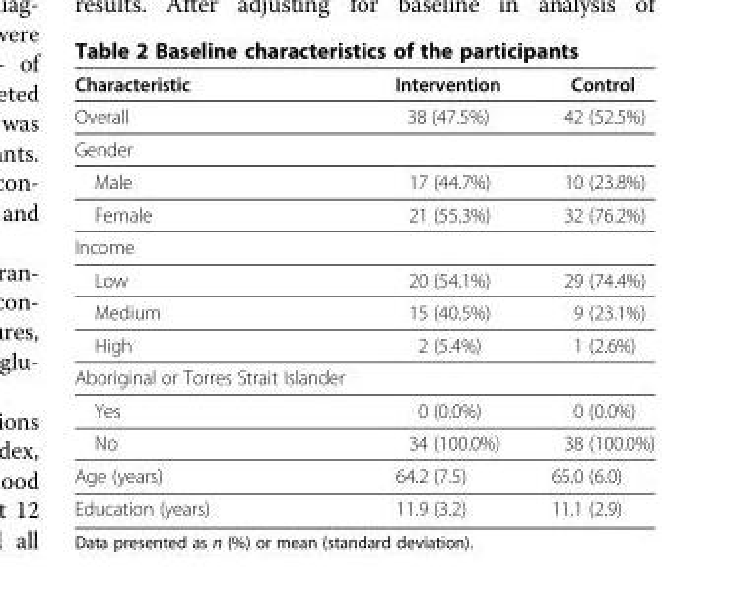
<table><thead><tr><td>Characteristic</td><td>Intervention</td><td>Control</td></tr></thead><tbody><tr><td>Overall</td><td>38 (47.5%)</td><td>42 (52.5%)</td></tr><tr><td colspan="3">Gender</td></tr><tr><td>Male</td><td>17 (44.7%)</td><td>10 (23.8%)</td></tr><tr><td>Female</td><td>21 (55.3%)</td><td>32 (76.2%)</td></tr><tr><td colspan="3">Income</td></tr><tr><td>Low</td><td>20 (54.1%)</td><td>29 (74.4%)</td></tr><tr><td>Medium</td><td>15 (40.5%)</td><td>9 (23.1%)</td></tr><tr><td>High</td><td>2 (5.4%)</td><td>1 (2.6%)</td></tr><tr><td colspan="3">Aboriginal or Torres Strait Islander</td></tr><tr><td>Yes</td><td>0 (0.0%)</td><td>0 (0.0%)</td></tr><tr><td>No</td><td>34 (100.0%)</td><td>38 (100.0%)</td></tr><tr><td>Age (years)</td><td>64.2 (7.5)</td><td>65.0 (6.0)</td></tr><tr><td>Education (years)</td><td>11.9 (3.2)</td><td>11.1 (2.9)</td></tr></tbody></table>